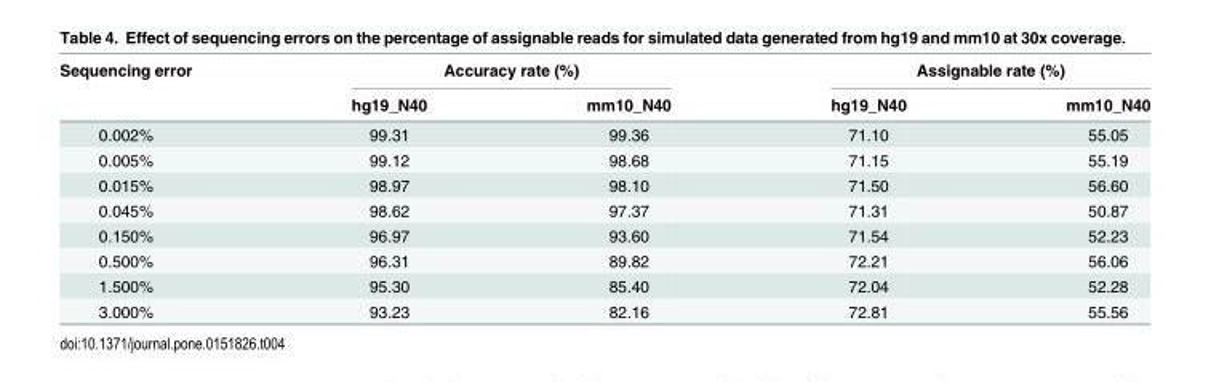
<table><thead><tr><td rowspan="2">Sequencing error</td><td colspan="2">Accuracy rate (%)</td><td colspan="2">Assignable rate (%)</td></tr><tr><td>hg19_N40</td><td>mm10_N40</td><td>hg19_N40</td><td>mm10_N40</td></tr></thead><tbody><tr><td>0.002%</td><td>99.31</td><td>99.36</td><td>71.10</td><td>55.05</td></tr><tr><td>0.005%</td><td>99.12</td><td>98.68</td><td>71.15</td><td>55.19</td></tr><tr><td>0.015%</td><td>98.97</td><td>98.10</td><td>71.50</td><td>56.60</td></tr><tr><td>0.045%</td><td>98.62</td><td>97.37</td><td>71.31</td><td>50.87</td></tr><tr><td>0.150%</td><td>96.97</td><td>93.60</td><td>71.54</td><td>52.23</td></tr><tr><td>0.500%</td><td>96.31</td><td>89.82</td><td>72.21</td><td>56.06</td></tr><tr><td>1.500%</td><td>95.30</td><td>85.40</td><td>72.04</td><td>52.28</td></tr><tr><td>3.000%</td><td>93.23</td><td>82.16</td><td>72.81</td><td>55.56</td></tr></tbody></table>